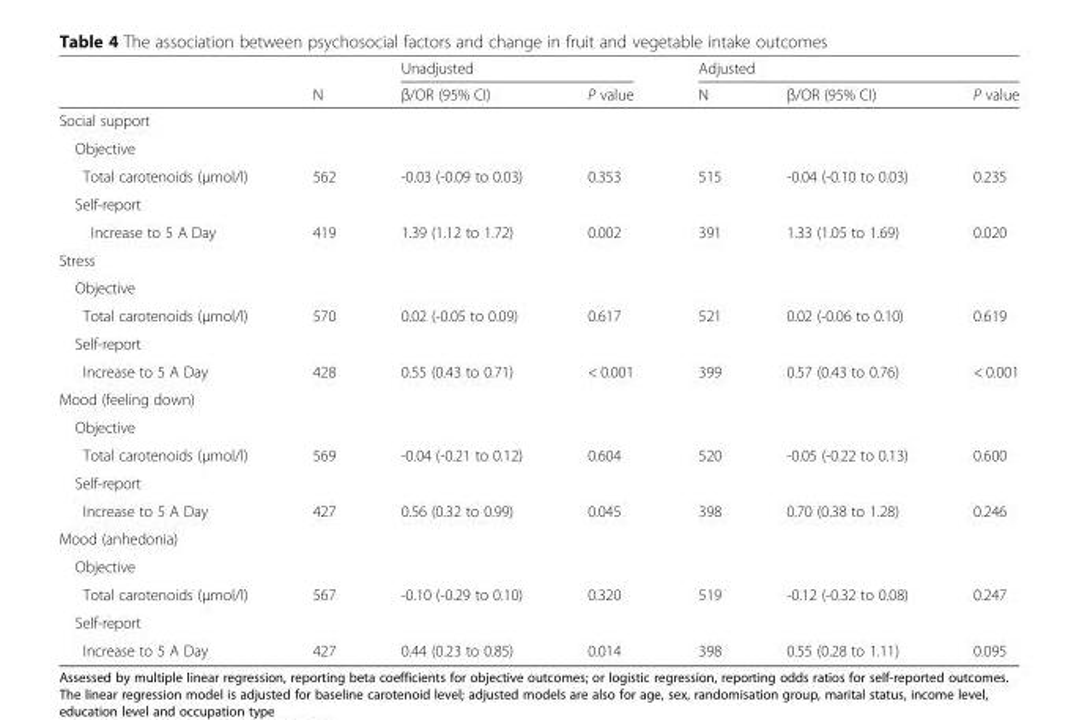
<table><thead><tr><td rowspan="2"></td><td rowspan="2">N</td><td colspan="2">Unadjusted</td><td colspan="3">Adjusted</td></tr><tr><td>β/OR (95% CI)</td><td>P value</td><td>N</td><td>β/OR (95% CI)</td><td>P value</td></tr></thead><tbody><tr><td colspan="7">Social support</td></tr><tr><td colspan="7">Objective</td></tr><tr><td>Total carotenoids (μmol/l)</td><td>562</td><td>-0.03 (-0.09 to 0.03)</td><td>0.353</td><td>515</td><td>-0.04 (-0.10 to 0.03)</td><td>0.235</td></tr><tr><td colspan="7">Self-report</td></tr><tr><td>Increase to 5 A Day</td><td>419</td><td>1.39 (1.12 to 1.72)</td><td>0.002</td><td>391</td><td>1.33 (1.05 to 1.69)</td><td>0.020</td></tr><tr><td colspan="7">Stress</td></tr><tr><td colspan="7">Objective</td></tr><tr><td>Total carotenoids (μmol/l)</td><td>570</td><td>0.02 (-0.05 to 0.09)</td><td>0.617</td><td>521</td><td>0.02 (-0.06 to 0.10)</td><td>0.619</td></tr><tr><td colspan="7">Self-report</td></tr><tr><td>Increase to 5 A Day</td><td>428</td><td>0.55 (0.43 to 0.71)</td><td>&lt; 0.001</td><td>399</td><td>0.57 (0.43 to 0.76)</td><td>&lt; 0.001</td></tr><tr><td colspan="7">Mood (feeling down)</td></tr><tr><td colspan="7">Objective</td></tr><tr><td>Total carotenoids (μmol/l)</td><td>569</td><td>-0.04 (-0.21 to 0.12)</td><td>0.604</td><td>520</td><td>-0.05 (-0.22 to 0.13)</td><td>0.600</td></tr><tr><td colspan="7">Self-report</td></tr><tr><td>Increase to 5 A Day</td><td>427</td><td>0.56 (0.32 to 0.99)</td><td>0.045</td><td>398</td><td>0.70 (0.38 to 1.28)</td><td>0.246</td></tr><tr><td colspan="7">Mood (anhedonia)</td></tr><tr><td colspan="7">Objective</td></tr><tr><td>Total carotenoids (μmol/l)</td><td>567</td><td>-0.10 (-0.29 to 0.10)</td><td>0.320</td><td>519</td><td>-0.12 (-0.32 to 0.08)</td><td>0.247</td></tr><tr><td colspan="7">Self-report</td></tr><tr><td>Increase to 5 A Day</td><td>427</td><td>0.44 (0.23 to 0.85)</td><td>0.014</td><td>398</td><td>0.55 (0.28 to 1.11)</td><td>0.095</td></tr></tbody></table>